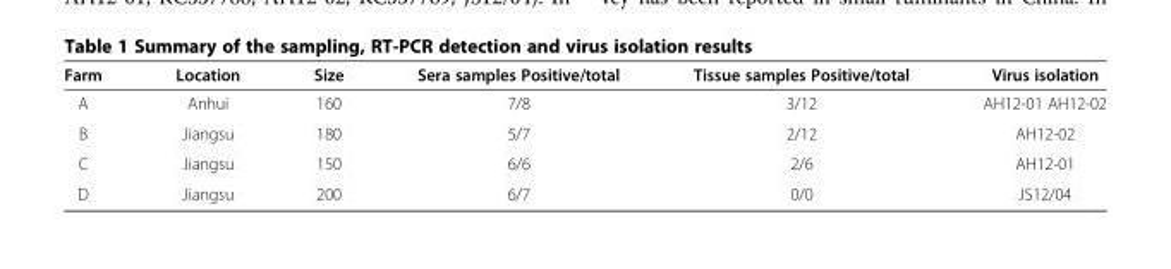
<table><thead><tr><td>Farm</td><td>Location</td><td>Size</td><td>Sera samples Positive/total</td><td>Tissue samples Positive/total</td><td>Virus isolation</td></tr></thead><tbody><tr><td>A</td><td>Anhui</td><td>160</td><td>7/8</td><td>3/12</td><td>AH12-01 AH12-02</td></tr><tr><td>B</td><td>Jiangsu</td><td>180</td><td>5/7</td><td>2/12</td><td>AH12-02</td></tr><tr><td>C</td><td>Jiangsu</td><td>150</td><td>6/6</td><td>2/6</td><td>AH12-01</td></tr><tr><td>D</td><td>Jiangsu</td><td>200</td><td>6/7</td><td>0/0</td><td>JS12/04</td></tr></tbody></table>